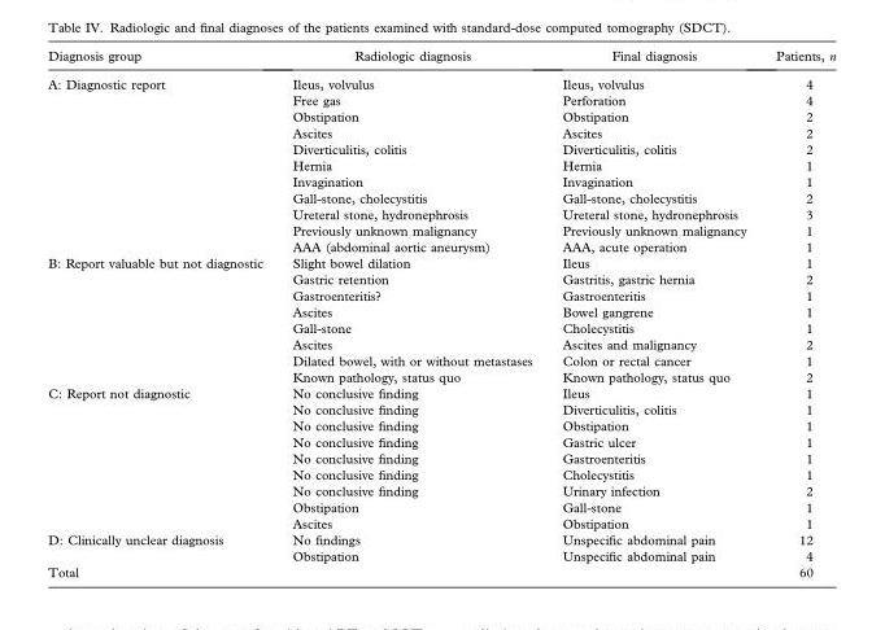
<table><thead><tr><td>Diagnosis group</td><td>Radiologic diagnosis</td><td>Final diagnosis</td><td>Patients, n</td></tr></thead><tbody><tr><td rowspan="11">A: Diagnostic report</td><td>Ileus, volvulus</td><td>Ileus, volvulus</td><td>4</td></tr><tr><td>Free gas</td><td>Perforation</td><td>4</td></tr><tr><td>Obstipation</td><td>Obstipation</td><td>2</td></tr><tr><td>Ascites</td><td>Ascites</td><td>2</td></tr><tr><td>Diverticulitis, colitis</td><td>Diverticulitis, colitis</td><td>2</td></tr><tr><td>Hernia</td><td>Hernia</td><td>1</td></tr><tr><td>Invagination</td><td>Invagination</td><td>1</td></tr><tr><td>Gall-stone, cholecystitis</td><td>Gall-stone, cholecystitis</td><td>2</td></tr><tr><td>Ureteral stone, hydronephrosis</td><td>Ureteral stone, hydronephrosis</td><td>3</td></tr><tr><td>Previously unknown malignancy</td><td>Previously unknown malignancy</td><td>1</td></tr><tr><td>AAA (abdominal aortic aneurysm)</td><td>AAA, acute operation</td><td>1</td></tr><tr><td rowspan="8">B: Report valuable but not diagnostic</td><td>Slight bowel dilation</td><td>Ileus</td><td>1</td></tr><tr><td>Gastric retention</td><td>Gastritis, gastric hernia</td><td>2</td></tr><tr><td>Gastroenteritis?</td><td>Gastroenteritis</td><td>1</td></tr><tr><td>Ascites</td><td>Bowel gangrene</td><td>1</td></tr><tr><td>Gall-stone</td><td>Cholecystitis</td><td>1</td></tr><tr><td>Ascites</td><td>Ascites and malignancy</td><td>2</td></tr><tr><td>Dilated bowel, with or without metastases</td><td>Colon or rectal cancer</td><td>1</td></tr><tr><td>Known pathology, status quo</td><td>Known pathology, status quo</td><td>2</td></tr><tr><td rowspan="9">C: Report not diagnostic</td><td>No conclusive finding</td><td>Ileus</td><td>1</td></tr><tr><td>No conclusive finding</td><td>Diverticulitis, colitis</td><td>1</td></tr><tr><td>No conclusive finding</td><td>Obstipation</td><td>1</td></tr><tr><td>No conclusive finding</td><td>Gastric ulcer</td><td>1</td></tr><tr><td>No conclusive finding</td><td>Gastroenteritis</td><td>1</td></tr><tr><td>No conclusive finding</td><td>Cholecystitis</td><td>1</td></tr><tr><td>No conclusive finding</td><td>Urinary infection</td><td>2</td></tr><tr><td>Obstipation</td><td>Gall-stone</td><td>1</td></tr><tr><td>Ascites</td><td>Obstipation</td><td>1</td></tr><tr><td rowspan="2">D: Clinically unclear diagnosis</td><td>No findings</td><td>Unspecific abdominal pain</td><td>12</td></tr><tr><td>Obstipation</td><td>Unspecific abdominal pain</td><td>4</td></tr><tr><td>Total</td><td></td><td></td><td>60</td></tr></tbody></table>